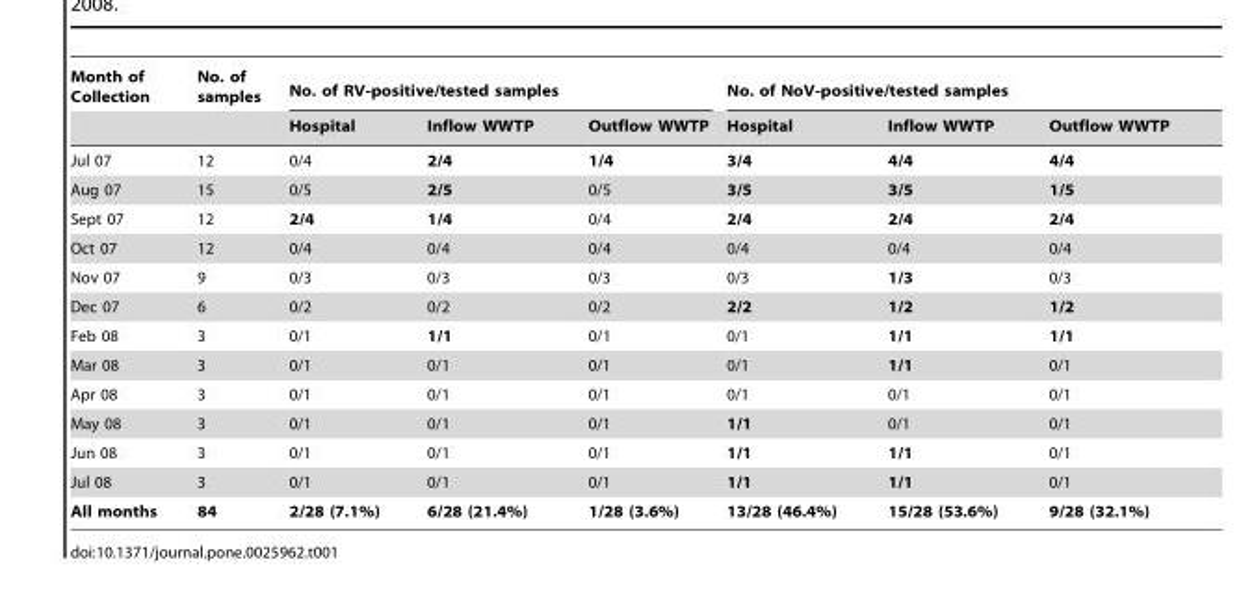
<table><thead><tr><td rowspan="2">Month of Collection</td><td rowspan="2">No. of samples</td><td colspan="3">No. of RV-positive/tested samples</td><td colspan="3">No. of NoV-positive/tested samples</td></tr><tr><td>Hospital</td><td>Inflow WWTP</td><td>Outflow WWTP</td><td>Hospital</td><td>Inflow WWTP</td><td>Outflow WWTP</td></tr></thead><tbody><tr><td>Jul 07</td><td>12</td><td>0/4</td><td>2/4</td><td>1/4</td><td>3/4</td><td>4/4</td><td>4/4</td></tr><tr><td>Aug 07</td><td>15</td><td>0/5</td><td>2/5</td><td>0/5</td><td>3/5</td><td>3/5</td><td>1/5</td></tr><tr><td>Sept 07</td><td>12</td><td>2/4</td><td>1/4</td><td>0/4</td><td>2/4</td><td>2/4</td><td>2/4</td></tr><tr><td>Oct 07</td><td>12</td><td>0/4</td><td>0/4</td><td>0/4</td><td>0/4</td><td>0/4</td><td>0/4</td></tr><tr><td>Nov 07</td><td>9</td><td>0/3</td><td>0/3</td><td>0/3</td><td>0/3</td><td>1/3</td><td>0/3</td></tr><tr><td>Dec 07</td><td>6</td><td>0/2</td><td>0/2</td><td>0/2</td><td>2/2</td><td>1/2</td><td>1/2</td></tr><tr><td>Feb 08</td><td>3</td><td>0/1</td><td>1/1</td><td>0/1</td><td>0/1</td><td>1/1</td><td>1/1</td></tr><tr><td>Mar 08</td><td>3</td><td>0/1</td><td>0/1</td><td>0/1</td><td>0/1</td><td>1/1</td><td>0/1</td></tr><tr><td>Apr 08</td><td>3</td><td>0/1</td><td>0/1</td><td>0/1</td><td>0/1</td><td>0/1</td><td>0/1</td></tr><tr><td>May 08</td><td>3</td><td>0/1</td><td>0/1</td><td>0/1</td><td>1/1</td><td>0/1</td><td>0/1</td></tr><tr><td>Jun 08</td><td>3</td><td>0/1</td><td>0/1</td><td>0/1</td><td>1/1</td><td>1/1</td><td>0/1</td></tr><tr><td>Jul 08</td><td>3</td><td>0/1</td><td>0/1</td><td>0/1</td><td>1/1</td><td>1/1</td><td>0/1</td></tr><tr><td>All months</td><td>84</td><td>2/28 (7.1%)</td><td>6/28 (21.4%)</td><td>1/28 (3.6%)</td><td>13/28 (46.4%)</td><td>15/28 (53.6%)</td><td>9/28 (32.1%)</td></tr></tbody></table>